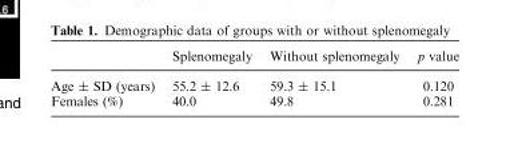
<table><thead><tr><td></td><td>Splenomegaly</td><td>Without splenomegaly</td><td>p value</td></tr></thead><tbody><tr><td>Age ± SD (years)</td><td>55.2 ± 12.6</td><td>59.3 ± 15.1</td><td>0.120</td></tr><tr><td>Females (%)</td><td>40.0</td><td>49.8</td><td>0.281</td></tr></tbody></table>